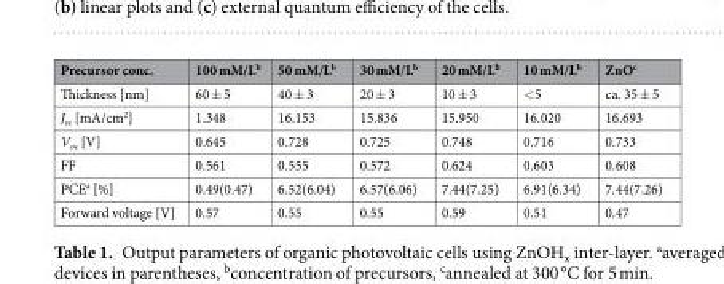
<table><thead><tr><td>Precursor conc.</td><td>100 mM/L<sup>b</sup></td><td>50 mM/L<sup>b</sup></td><td>30 mM/L<sup>b</sup></td><td>20 mM/L<sup>b</sup></td><td>10 mM/L<sup>b</sup></td><td>ZnO<sup>c</sup></td></tr></thead><tbody><tr><td>Thickness [nm]</td><td>60 ± 5</td><td>40 ± 3</td><td>20 ± 3</td><td>10 ± 3</td><td>&lt;5</td><td>ca. 35 ± 5</td></tr><tr><td>J<sub>sc</sub> [mA/cm<sup>2</sup>]</td><td>1.348</td><td>16.153</td><td>15.836</td><td>15.950</td><td>16.020</td><td>16.693</td></tr><tr><td>V<sub>oc</sub> [V]</td><td>0.645</td><td>0.728</td><td>0.725</td><td>0.748</td><td>0.716</td><td>0.733</td></tr><tr><td>FF</td><td>0.561</td><td>0.555</td><td>0.572</td><td>0.624</td><td>0.603</td><td>0.608</td></tr><tr><td>PCE<sup>a</sup> [%]</td><td>0.49(0.47)</td><td>6.52(6.04)</td><td>6.57(6.06)</td><td>7.44(7.25)</td><td>6.91(6.34)</td><td>7.44(7.26)</td></tr><tr><td>Forward voltage [V]</td><td>0.57</td><td>0.55</td><td>0.55</td><td>0.59</td><td>0.51</td><td>0.47</td></tr></tbody></table>